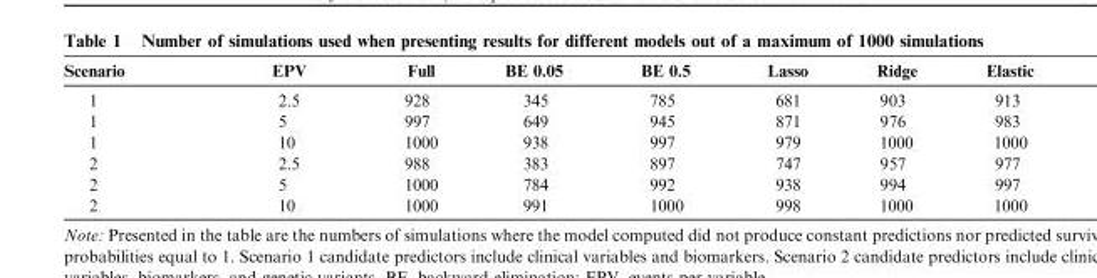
<table><thead><tr><td>Scenario</td><td>EPV</td><td>Full</td><td>BE 0.05</td><td>BE 0.5</td><td>Lasso</td><td>Ridge</td><td>Elastic</td></tr></thead><tbody><tr><td>1</td><td>2.5</td><td>928</td><td>345</td><td>785</td><td>681</td><td>903</td><td>913</td></tr><tr><td>1</td><td>5</td><td>997</td><td>649</td><td>945</td><td>871</td><td>976</td><td>983</td></tr><tr><td>1</td><td>10</td><td>1000</td><td>938</td><td>997</td><td>979</td><td>1000</td><td>1000</td></tr><tr><td>2</td><td>2.5</td><td>988</td><td>383</td><td>897</td><td>747</td><td>957</td><td>977</td></tr><tr><td>2</td><td>5</td><td>1000</td><td>784</td><td>992</td><td>938</td><td>994</td><td>997</td></tr><tr><td>2</td><td>10</td><td>1000</td><td>991</td><td>1000</td><td>998</td><td>1000</td><td>1000</td></tr></tbody></table>